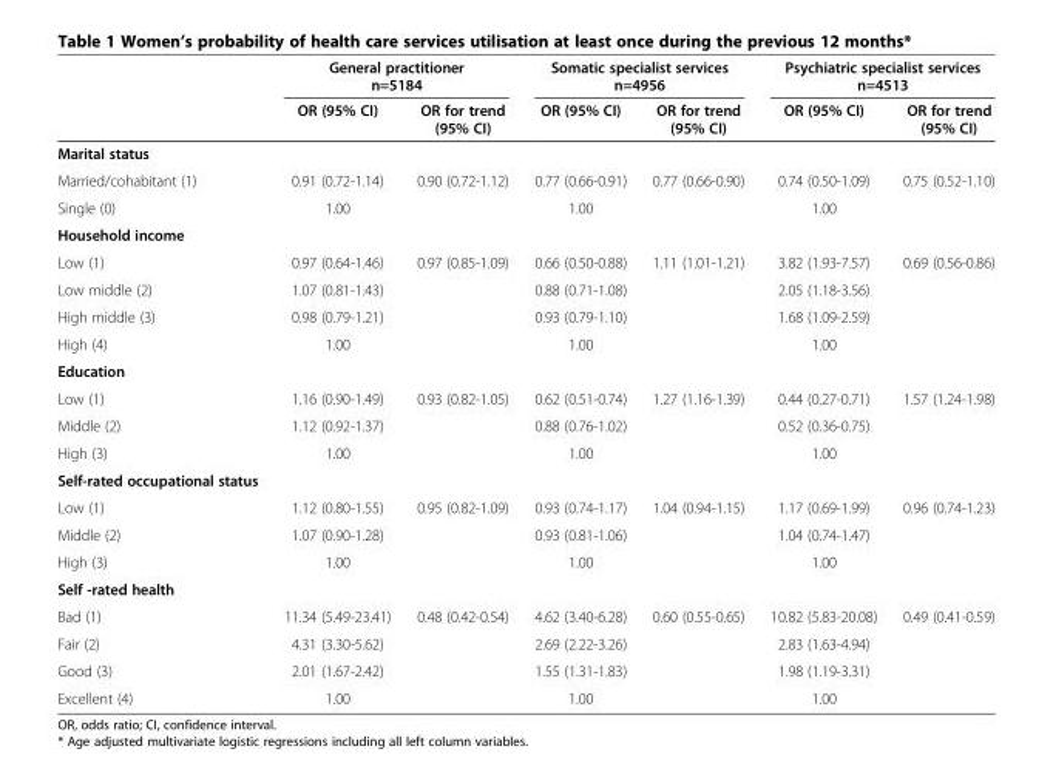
<table><thead><tr><td rowspan="2"></td><td colspan="2">General practitioner n=5184</td><td colspan="2">Somatic specialist services n=4956</td><td colspan="2">Psychiatric specialist services n=4513</td></tr><tr><td>OR (95% CI)</td><td>OR for trend (95% CI)</td><td>OR (95% CI)</td><td>OR for trend (95% CI)</td><td>OR (95% CI)</td><td>OR for trend (95% CI)</td></tr></thead><tbody><tr><td colspan="7">Marital status</td></tr><tr><td>Married/cohabitant (1)</td><td>0.91 (0.72-1.14)</td><td>0.90 (0.72-1.12)</td><td>0.77 (0.66-0.91)</td><td>0.77 (0.66-0.90)</td><td>0.74 (0.50-1.09)</td><td>0.75 (0.52-1.10)</td></tr><tr><td>Single (0)</td><td>1.00</td><td></td><td>1.00</td><td></td><td>1.00</td><td></td></tr><tr><td colspan="7">Household income</td></tr><tr><td>Low (1)</td><td>0.97 (0.64-1.46)</td><td>0.97 (0.85-1.09)</td><td>0.66 (0.50-0.88)</td><td>1.11 (1.01-1.21)</td><td>3.82 (1.93-7.57)</td><td>0.69 (0.56-0.86)</td></tr><tr><td>Low middle (2)</td><td>1.07 (0.81-1.43)</td><td></td><td>0.88 (0.71-1.08)</td><td></td><td>2.05 (1.18-3.56)</td><td></td></tr><tr><td>High middle (3)</td><td>0.98 (0.79-1.21)</td><td></td><td>0.93 (0.79-1.10)</td><td></td><td>1.68 (1.09-2.59)</td><td></td></tr><tr><td>High (4)</td><td>1.00</td><td></td><td>1.00</td><td></td><td>1.00</td><td></td></tr><tr><td colspan="7">Education</td></tr><tr><td>Low (1)</td><td>1.16 (0.90-1.49)</td><td>0.93 (0.82-1.05)</td><td>0.62 (0.51-0.74)</td><td>1.27 (1.16-1.39)</td><td>0.44 (0.27-0.71)</td><td>1.57 (1.24-1.98)</td></tr><tr><td>Middle (2)</td><td>1.12 (0.92-1.37)</td><td></td><td>0.88 (0.76-1.02)</td><td></td><td>0.52 (0.36-0.75)</td><td></td></tr><tr><td>High (3)</td><td>1.00</td><td></td><td>1.00</td><td></td><td>1.00</td><td></td></tr><tr><td colspan="7">Self-rated occupational status</td></tr><tr><td>Low (1)</td><td>1.12 (0.80-1.55)</td><td>0.95 (0.82-1.09)</td><td>0.93 (0.74-1.17)</td><td>1.04 (0.94-1.15)</td><td>1.17 (0.69-1.99)</td><td>0.96 (0.74-1.23)</td></tr><tr><td>Middle (2)</td><td>1.07 (0.90-1.28)</td><td></td><td>0.93 (0.81-1.06)</td><td></td><td>1.04 (0.74-1.47)</td><td></td></tr><tr><td>High (3)</td><td>1.00</td><td></td><td>1.00</td><td></td><td>1.00</td><td></td></tr><tr><td colspan="7">Self -rated health</td></tr><tr><td>Bad (1)</td><td>11.34 (5.49-23.41)</td><td>0.48 (0.42-0.54)</td><td>4.62 (3.40-6.28)</td><td>0.60 (0.55-0.65)</td><td>10.82 (5.83-20.08)</td><td>0.49 (0.41-0.59)</td></tr><tr><td>Fair (2)</td><td>4.31 (3.30-5.62)</td><td></td><td>2.69 (2.22-3.26)</td><td></td><td>2.83 (1.63-4.94)</td><td></td></tr><tr><td>Good (3)</td><td>2.01 (1.67-2.42)</td><td></td><td>1.55 (1.31-1.83)</td><td></td><td>1.98 (1.19-3.31)</td><td></td></tr><tr><td>Excellent (4)</td><td>1.00</td><td></td><td>1.00</td><td></td><td>1.00</td><td></td></tr></tbody></table>